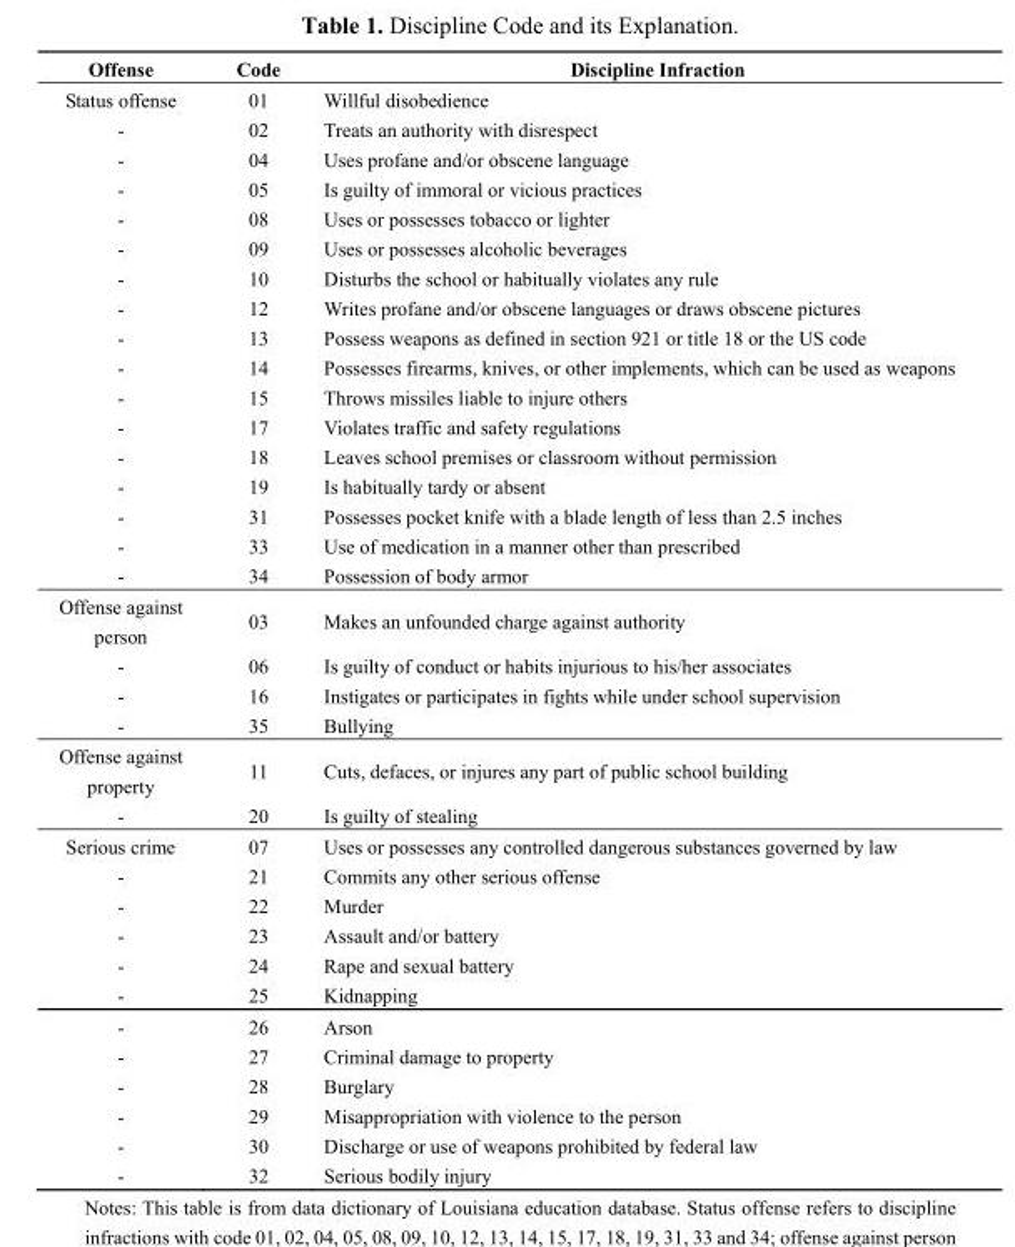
<table><thead><tr><td>Offense</td><td>Code</td><td>Discipline Infraction</td></tr></thead><tbody><tr><td>Status offense</td><td>01</td><td>Willful disobedience</td></tr><tr><td>-</td><td>02</td><td>Treats an authority with disrespect</td></tr><tr><td>-</td><td>04</td><td>Uses profane and/or obscene language</td></tr><tr><td>-</td><td>05</td><td>Is guilty of immoral or vicious practices</td></tr><tr><td>-</td><td>08</td><td>Uses or possesses tobacco or lighter</td></tr><tr><td>-</td><td>09</td><td>Uses or possesses alcoholic beverages</td></tr><tr><td>-</td><td>10</td><td>Disturbs the school or habitually violates any rule</td></tr><tr><td>-</td><td>12</td><td>Writes profane and/or obscene languages or draws obscene pictures</td></tr><tr><td>-</td><td>13</td><td>Possess weapons as defined in section 921 or title 18 or the US code</td></tr><tr><td>-</td><td>14</td><td>Possesses firearms, knives, or other implements, which can be used as weapons</td></tr><tr><td>-</td><td>15</td><td>Throws missiles liable to injure others</td></tr><tr><td>-</td><td>17</td><td>Violates traffic and safety regulations</td></tr><tr><td>-</td><td>18</td><td>Leaves school premises or classroom without permission</td></tr><tr><td>-</td><td>19</td><td>Is habitually tardy or absent</td></tr><tr><td>-</td><td>31</td><td>Possesses pocket knife with a blade length of less than 2.5 inches</td></tr><tr><td>-</td><td>33</td><td>Use of medication in a manner other than prescribed</td></tr><tr><td>-</td><td>34</td><td>Possession of body armor</td></tr><tr><td>Offense against person</td><td>03</td><td>Makes an unfounded charge against authority</td></tr><tr><td>-</td><td>06</td><td>Is guilty of conduct or habits injurious to his/her associates</td></tr><tr><td>-</td><td>16</td><td>Instigates or participates in fights while under school supervision</td></tr><tr><td>-</td><td>35</td><td>Bullying</td></tr><tr><td>Offense against property</td><td>11</td><td>Cuts, defaces, or injures any part of public school building</td></tr><tr><td>-</td><td>20</td><td>Is guilty of stealing</td></tr><tr><td>Serious crime</td><td>07</td><td>Uses or possesses any controlled dangerous substances governed by law</td></tr><tr><td>-</td><td>21</td><td>Commits any other serious offense</td></tr><tr><td>-</td><td>22</td><td>Murder</td></tr><tr><td>-</td><td>23</td><td>Assault and/or battery</td></tr><tr><td>-</td><td>24</td><td>Rape and sexual battery</td></tr><tr><td>-</td><td>25</td><td>Kidnapping</td></tr><tr><td>-</td><td>26</td><td>Arson</td></tr><tr><td>-</td><td>27</td><td>Criminal damage to property</td></tr><tr><td>-</td><td>28</td><td>Burglary</td></tr><tr><td>-</td><td>29</td><td>Misappropriation with violence to the person</td></tr><tr><td>-</td><td>30</td><td>Discharge or use of weapons prohibited by federal law</td></tr><tr><td>-</td><td>32</td><td>Serious bodily injury</td></tr></tbody></table>